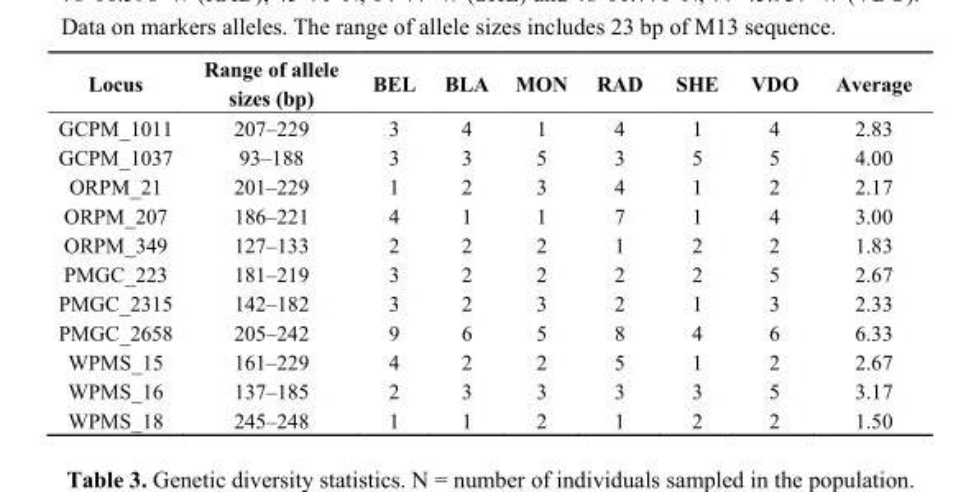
<table><thead><tr><td>Locus</td><td>Range of allele sizes (bp)</td><td>BEL</td><td>BLA</td><td>MON</td><td>RAD</td><td>SHE</td><td>VDO</td><td>Average</td></tr></thead><tbody><tr><td>GCPM_1011</td><td>207–229</td><td>3</td><td>4</td><td>1</td><td>4</td><td>1</td><td>4</td><td>2.83</td></tr><tr><td>GCPM_1037</td><td>93–188</td><td>3</td><td>3</td><td>5</td><td>3</td><td>5</td><td>5</td><td>4.00</td></tr><tr><td>ORPM_21</td><td>201–229</td><td>1</td><td>2</td><td>3</td><td>4</td><td>1</td><td>2</td><td>2.17</td></tr><tr><td>ORPM_207</td><td>186–221</td><td>4</td><td>1</td><td>1</td><td>7</td><td>1</td><td>4</td><td>3.00</td></tr><tr><td>ORPM_349</td><td>127–133</td><td>2</td><td>2</td><td>2</td><td>1</td><td>2</td><td>2</td><td>1.83</td></tr><tr><td>PMGC_223</td><td>181–219</td><td>3</td><td>2</td><td>2</td><td>2</td><td>2</td><td>5</td><td>2.67</td></tr><tr><td>PMGC_2315</td><td>142–182</td><td>3</td><td>2</td><td>3</td><td>2</td><td>1</td><td>3</td><td>2.33</td></tr><tr><td>PMGC_2658</td><td>205–242</td><td>9</td><td>6</td><td>5</td><td>8</td><td>4</td><td>6</td><td>6.33</td></tr><tr><td>WPMS_15</td><td>161–229</td><td>4</td><td>2</td><td>2</td><td>5</td><td>1</td><td>2</td><td>2.67</td></tr><tr><td>WPMS_16</td><td>137–185</td><td>2</td><td>3</td><td>3</td><td>3</td><td>3</td><td>5</td><td>3.17</td></tr><tr><td>WPMS_18</td><td>245–248</td><td>1</td><td>1</td><td>2</td><td>1</td><td>2</td><td>2</td><td>1.50</td></tr></tbody></table>